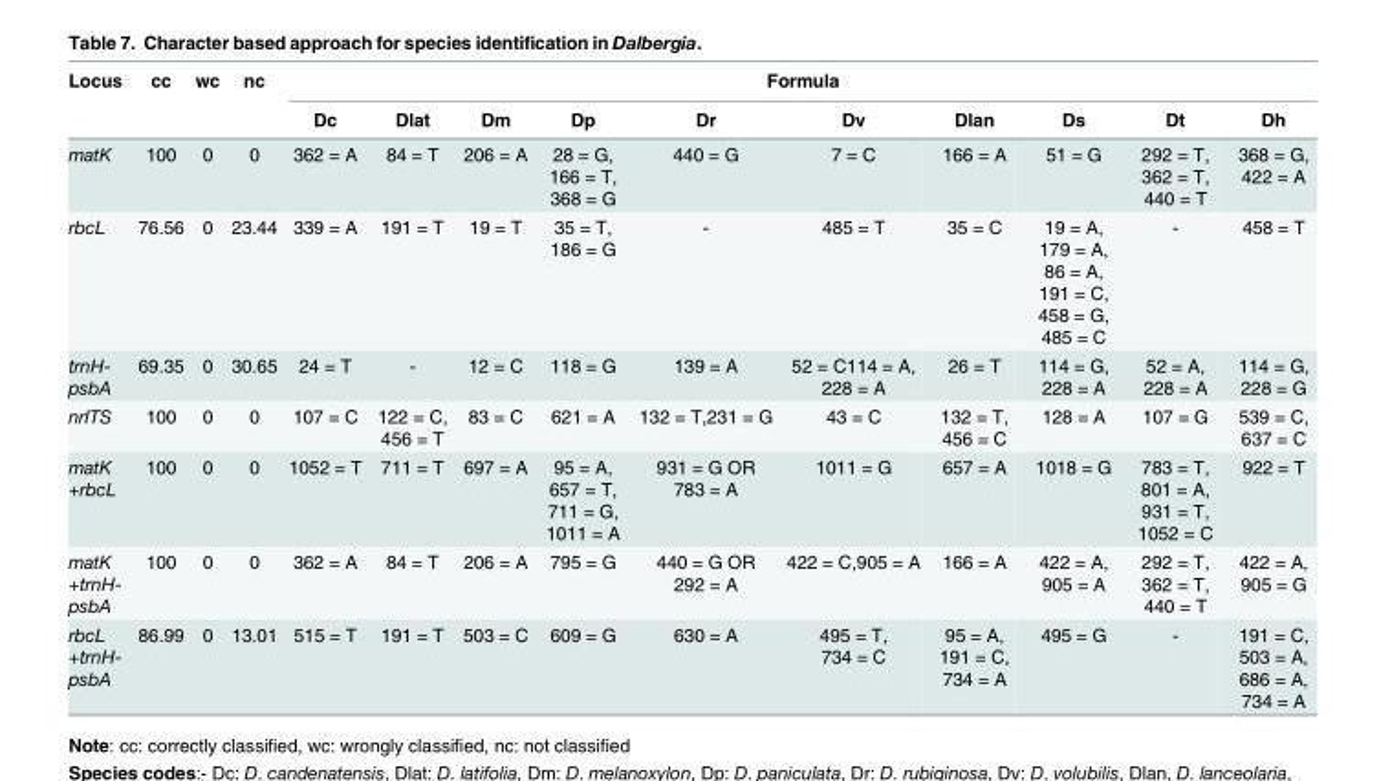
<table><thead><tr><td rowspan="2">Locus</td><td rowspan="2">cc</td><td rowspan="2">wc</td><td rowspan="2">nc</td><td colspan="10">Formula</td></tr><tr><td>Dc</td><td>Dlat</td><td>Dm</td><td>Dp</td><td>Dr</td><td>Dv</td><td>Dlan</td><td>Ds</td><td>Dt</td><td>Dh</td></tr></thead><tbody><tr><td>matK</td><td>100</td><td>0</td><td>0</td><td>362 = A</td><td>84 = T</td><td>206 = A</td><td>28 = G, 166 = T, 368 = G</td><td>440 = G</td><td>7 = C</td><td>166 = A</td><td>51 = G</td><td>292 = T, 362 = T, 440 = T</td><td>368 = G, 422 = A</td></tr><tr><td>rbcL</td><td>76.56</td><td>0</td><td>23.44</td><td>339 = A</td><td>191 = T</td><td>19 = T</td><td>35 = T, 186 = G</td><td>-</td><td>485 = T</td><td>35 = C</td><td>19 = A, 179 = A, 86 = A, 191 = C, 458 = G, 485 = C</td><td>-</td><td>458 = T</td></tr><tr><td>trnH- psbA</td><td>69.35</td><td>0</td><td>30.65</td><td>24 = T</td><td>-</td><td>12 = C</td><td>118 = G</td><td>139 = A</td><td>52 = C114 = A, 228 = A</td><td>26 = T</td><td>114 = G, 228 = A</td><td>52 = A, 228 = A</td><td>114 = G, 228 = G</td></tr><tr><td>nrITS</td><td>100</td><td>0</td><td>0</td><td>107 = C</td><td>122 = C, 456 = T</td><td>83 = C</td><td>621 = A</td><td>132 = T,231 = G</td><td>43 = C</td><td>132 = T, 456 = C</td><td>128 = A</td><td>107 = G</td><td>539 = C, 637 = C</td></tr><tr><td>matK +rbcL</td><td>100</td><td>0</td><td>0</td><td>1052 = T</td><td>711 = T</td><td>697 = A</td><td>95 = A, 657 = T, 711 = G, 1011 = A</td><td>931 = G OR 783 = A</td><td>1011 = G</td><td>657 = A</td><td>1018 = G</td><td>783 = T, 801 = A, 931 = T, 1052 = C</td><td>922 = T</td></tr><tr><td>matK +trnH- psbA</td><td>100</td><td>0</td><td>0</td><td>362 = A</td><td>84 = T</td><td>206 = A</td><td>795 = G</td><td>440 = G OR 292 = A</td><td>422 = C,905 = A</td><td>166 = A</td><td>422 = A, 905 = A</td><td>292 = T, 362 = T, 440 = T</td><td>422 = A, 905 = G</td></tr><tr><td>rbcL +trnH- psbA</td><td>86.99</td><td>0</td><td>13.01</td><td>515 = T</td><td>191 = T</td><td>503 = C</td><td>609 = G</td><td>630 = A</td><td>495 = T, 734 = C</td><td>95 = A, 191 = C, 734 = A</td><td>495 = G</td><td>-</td><td>191 = C, 503 = A, 686 = A, 734 = A</td></tr></tbody></table>